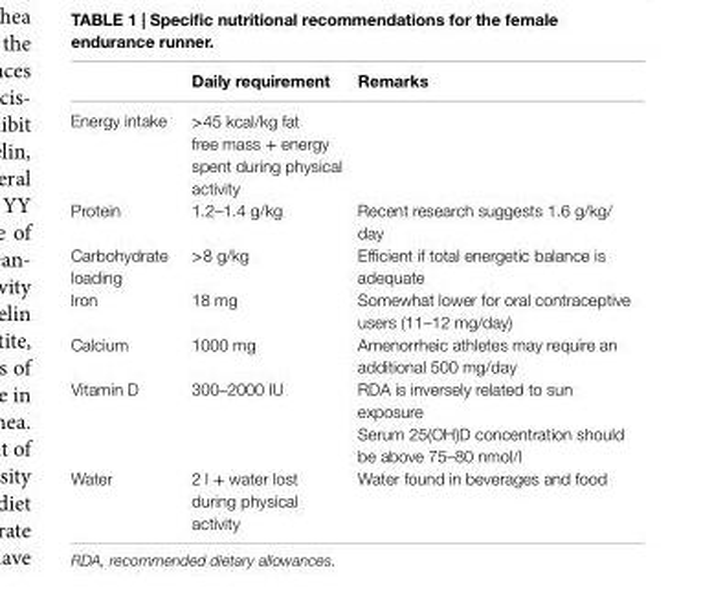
<table><thead><tr><td></td><td>Daily requirement</td><td>Remarks</td></tr></thead><tbody><tr><td>Energy intake</td><td>&gt;45 kcal/kg fat free mass + energy spent during physical activity</td><td></td></tr><tr><td>Protein</td><td>1.2–1.4 g/kg</td><td>Recent research suggests 1.6 g/kg/ day</td></tr><tr><td>Carbohydrate loading</td><td>&gt;8 g/kg</td><td>Efficient if total energetic balance is adequate</td></tr><tr><td>Iron</td><td>18 mg</td><td>Somewhat lower for oral contraceptive users (11–12 mg/day)</td></tr><tr><td>Calcium</td><td>1000 mg</td><td>Amenorrheic athletes may require an additional 500 mg/day</td></tr><tr><td rowspan="2">Vitamin D</td><td>300–2000 IU</td><td>RDA is inversely related to sun exposure</td></tr><tr><td></td><td>Serum 25(OH)D concentration should be above 75–80 nmol/l</td></tr><tr><td>Water</td><td>2 l + water lost during physical activity</td><td>Water found in beverages and food</td></tr></tbody></table>